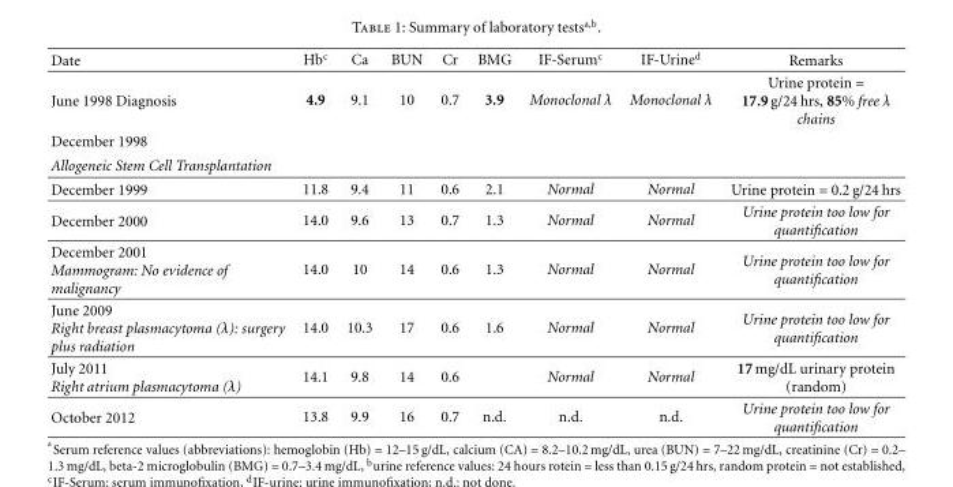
<table><thead><tr><td>Date</td><td>Hb<sup>c</sup></td><td>Ca</td><td>BUN</td><td>Cr</td><td>BMG</td><td>IF-Serum<sup>c</sup></td><td>IF-Urine<sup>d</sup></td><td>Remarks</td></tr></thead><tbody><tr><td>June 1998 Diagnosis</td><td>4.9</td><td>9.1</td><td>10</td><td>0.7</td><td>3.9</td><td>Monoclonal λ</td><td>Monoclonal λ</td><td>Urine protein = 17.9 g/24 hrs, 85% free λ chains</td></tr><tr><td colspan="9">December 1998</td></tr><tr><td colspan="9">Allogeneic Stem Cell Transplantation</td></tr><tr><td>December 1999</td><td>11.8</td><td>9.4</td><td>11</td><td>0.6</td><td>2.1</td><td>Normal</td><td>Normal</td><td>Urine protein = 0.2 g/24 hrs</td></tr><tr><td>December 2000</td><td>14.0</td><td>9.6</td><td>13</td><td>0.7</td><td>1.3</td><td>Normal</td><td>Normal</td><td>Urine protein too low for quantification</td></tr><tr><td>December 2001 Mammogram: No evidence of malignancy</td><td>14.0</td><td>10</td><td>14</td><td>0.6</td><td>1.3</td><td>Normal</td><td>Normal</td><td>Urine protein too low for quantification</td></tr><tr><td>June 2009 Right breast plasmacytoma (λ): surgery plus radiation</td><td>14.0</td><td>10.3</td><td>17</td><td>0.6</td><td>1.6</td><td>Normal</td><td>Normal</td><td>Urine protein too low for quantification</td></tr><tr><td>July 2011 Right atrium plasmacytoma (λ)</td><td>14.1</td><td>9.8</td><td>14</td><td>0.6</td><td></td><td>Normal</td><td>Normal</td><td>17 mg/dL urinary protein (random)</td></tr><tr><td>October 2012</td><td>13.8</td><td>9.9</td><td>16</td><td>0.7</td><td>n.d.</td><td>n.d.</td><td>n.d.</td><td>Urine protein too low for quantification</td></tr></tbody></table>